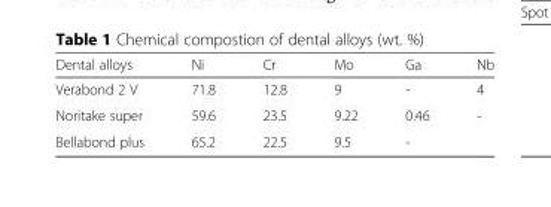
<table><thead><tr><td>Dental alloys</td><td>Ni</td><td>Cr</td><td>Mo</td><td>Ga</td><td>Nb</td></tr></thead><tbody><tr><td>Verabond 2 V</td><td>71.8</td><td>12.8</td><td>9</td><td>-</td><td>4</td></tr><tr><td>Noritake super</td><td>59.6</td><td>23.5</td><td>9.22</td><td>0.46</td><td>-</td></tr><tr><td>Bellabond plus</td><td>65.2</td><td>22.5</td><td>9.5</td><td>-</td><td></td></tr></tbody></table>